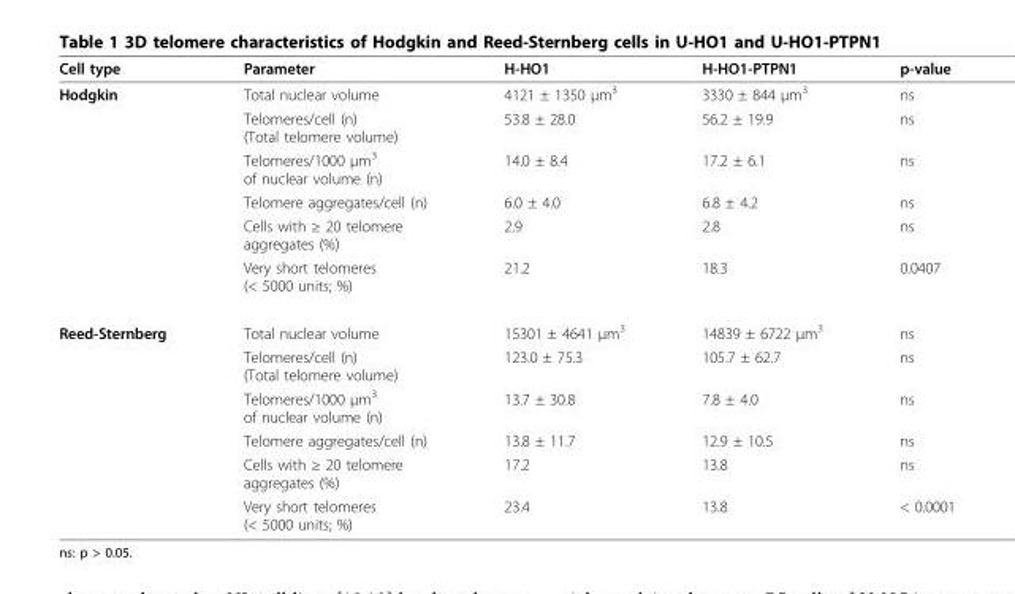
<table><thead><tr><td>Cell type</td><td>Parameter</td><td>H-HO1</td><td>H-HO1-PTPN1</td><td>p-value</td></tr></thead><tbody><tr><td rowspan="6">Hodgkin</td><td>Total nuclear volume</td><td>4121 ± 1350 μm<sup>3</sup></td><td>3330 ± 844 μm<sup>3</sup></td><td>ns</td></tr><tr><td>Telomeres/cell (n) (Total telomere volume)</td><td>53.8 ± 28.0</td><td>56.2 ± 19.9</td><td>ns</td></tr><tr><td>Telomeres/1000 μm<sup>3</sup> of nuclear volume (n)</td><td>14.0 ± 8.4</td><td>17.2 ± 6.1</td><td>ns</td></tr><tr><td>Telomere aggregates/cell (n)</td><td>6.0 ± 4.0</td><td>6.8 ± 4.2</td><td>ns</td></tr><tr><td>Cells with ≥ 20 telomere aggregates (%)</td><td>2.9</td><td>2.8</td><td>ns</td></tr><tr><td>Very short telomeres (&lt; 5000 units; %)</td><td>21.2</td><td>18.3</td><td>0.0407</td></tr><tr><td rowspan="6">Reed-Sternberg</td><td>Total nuclear volume</td><td>15301 ± 4641 μm<sup>3</sup></td><td>14839 ± 6722 μm<sup>3</sup></td><td>ns</td></tr><tr><td>Telomeres/cell (n) (Total telomere volume)</td><td>123.0 ± 75.3</td><td>105.7 ± 62.7</td><td>ns</td></tr><tr><td>Telomeres/1000 μm<sup>3</sup> of nuclear volume (n)</td><td>13.7 ± 30.8</td><td>7.8 ± 4.0</td><td>ns</td></tr><tr><td>Telomere aggregates/cell (n)</td><td>13.8 ± 11.7</td><td>12.9 ± 10.5</td><td>ns</td></tr><tr><td>Cells with ≥ 20 telomere aggregates (%)</td><td>17.2</td><td>13.8</td><td>ns</td></tr><tr><td>Very short telomeres (&lt; 5000 units; %)</td><td>23.4</td><td>13.8</td><td>&lt; 0.0001</td></tr></tbody></table>